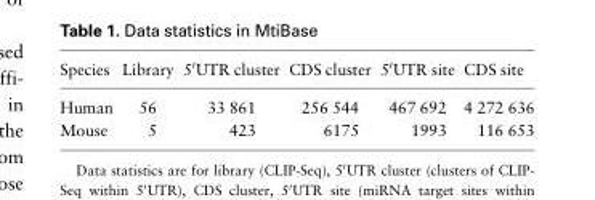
<table><thead><tr><td>Species</td><td>Library</td><td>5′UTR cluster</td><td>CDS cluster</td><td>5′UTR site</td><td>CDS site</td></tr></thead><tbody><tr><td>Human</td><td>56</td><td>33 861</td><td>256 544</td><td>467 692</td><td>4 272 636</td></tr><tr><td>Mouse</td><td>5</td><td>423</td><td>6175</td><td>1993</td><td>116 653</td></tr></tbody></table>